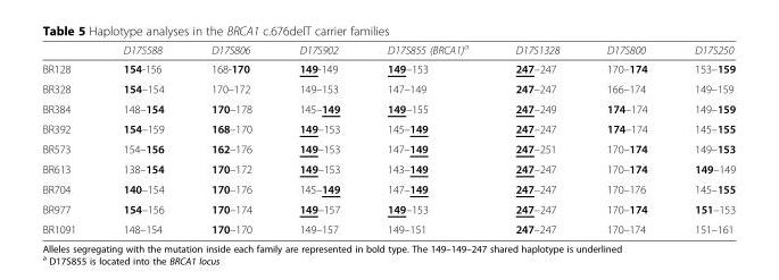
<table><thead><tr><td></td><td>D17S588</td><td>D17S806</td><td>D17S902</td><td>D17S855 (BRCA1)<sup>a</sup></td><td>D17S1328</td><td>D17S800</td><td>D17S250</td></tr></thead><tbody><tr><td>BR128</td><td>154-156</td><td>168-170</td><td>149-149</td><td>149–153</td><td>247–247</td><td>170–174</td><td>153–159</td></tr><tr><td>BR328</td><td>154–154</td><td>170–172</td><td>149–153</td><td>147–149</td><td>247–247</td><td>166–174</td><td>149–159</td></tr><tr><td>BR384</td><td>148–154</td><td>170–178</td><td>145–149</td><td>149–155</td><td>247–249</td><td>174–174</td><td>149–159</td></tr><tr><td>BR392</td><td>154–159</td><td>168–170</td><td>149–153</td><td>145–149</td><td>247–247</td><td>174–174</td><td>145–155</td></tr><tr><td>BR573</td><td>154–156</td><td>162–176</td><td>149–153</td><td>147–149</td><td>247–251</td><td>170–174</td><td>149–153</td></tr><tr><td>BR613</td><td>138–154</td><td>170–172</td><td>149–153</td><td>143–149</td><td>247–247</td><td>170–174</td><td>149–149</td></tr><tr><td>BR704</td><td>140–154</td><td>170–176</td><td>145–149</td><td>147–149</td><td>247–247</td><td>170–176</td><td>145–155</td></tr><tr><td>BR977</td><td>154–156</td><td>170–174</td><td>149–157</td><td>149–153</td><td>247–247</td><td>170–174</td><td>151–153</td></tr><tr><td>BR1091</td><td>148–154</td><td>170–170</td><td>149–157</td><td>149–151</td><td>247–247</td><td>170–174</td><td>151–161</td></tr></tbody></table>